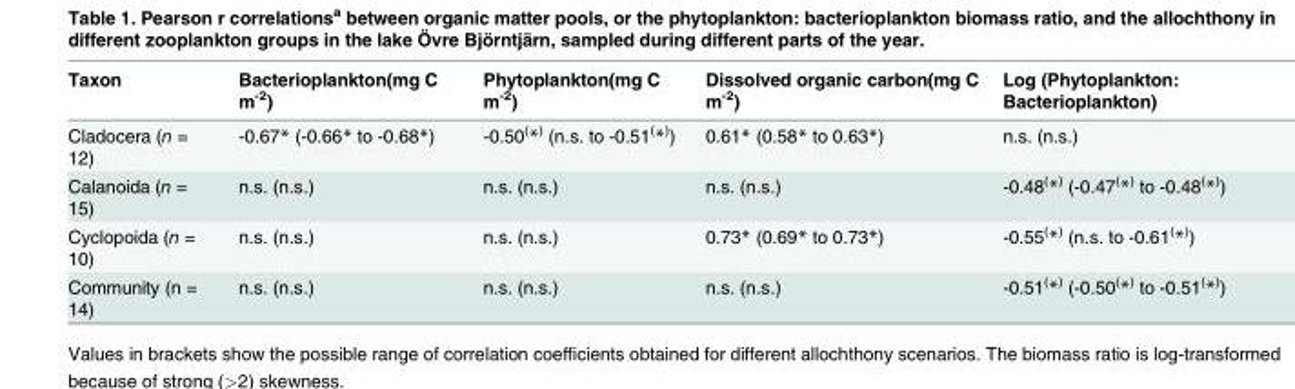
<table><thead><tr><td>Taxon</td><td>Bacterioplankton(mg C m<sup>-2</sup>)</td><td>Phytoplankton(mg C m<sup>-2</sup>)</td><td>Dissolved organic carbon(mg C m<sup>-2</sup>)</td><td>Log (Phytoplankton: Bacterioplankton)</td></tr></thead><tbody><tr><td>Cladocera (n = 12)</td><td>-0.67* (-0.66* to -0.68*)</td><td>-0.50<sup>(</sup>*<sup>)</sup> (n.s. to -0.51<sup>(</sup>*<sup>)</sup>)</td><td>0.61* (0.58* to 0.63*)</td><td>n.s. (n.s.)</td></tr><tr><td>Calanoida (n = 15)</td><td>n.s. (n.s.)</td><td>n.s. (n.s.)</td><td>n.s. (n.s.)</td><td>-0.48<sup>(</sup>*<sup>)</sup> (-0.47<sup>(</sup>*<sup>)</sup> to -0.48<sup>(</sup>*<sup>)</sup>)</td></tr><tr><td>Cyclopoida (n = 10)</td><td>n.s. (n.s.)</td><td>n.s. (n.s.)</td><td>0.73* (0.69* to 0.73*)</td><td>-0.55<sup>(</sup>*<sup>)</sup> (n.s. to -0.61<sup>(</sup>*<sup>)</sup>)</td></tr><tr><td>Community (n = 14)</td><td>n.s. (n.s.)</td><td>n.s. (n.s.)</td><td>n.s. (n.s.)</td><td>-0.51<sup>(</sup>*<sup>)</sup> (-0.50<sup>(</sup>*<sup>)</sup> to -0.51<sup>(</sup>*<sup>)</sup>)</td></tr></tbody></table>